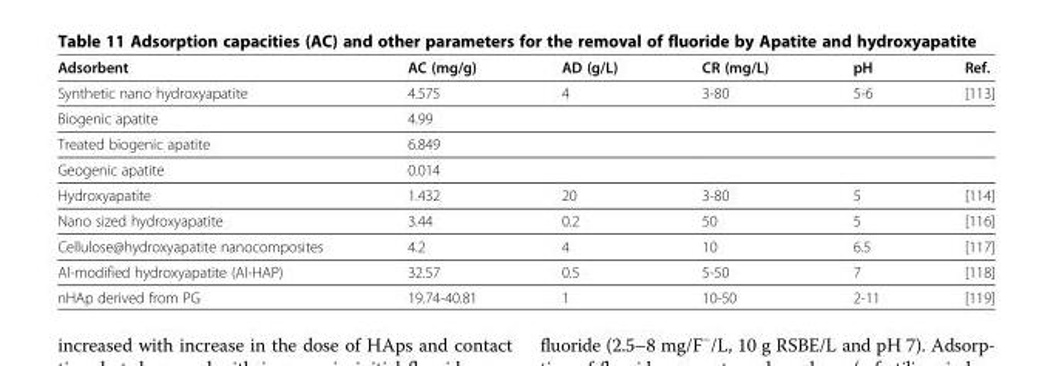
<table><thead><tr><td>Adsorbent</td><td>AC (mg/g)</td><td>AD (g/L)</td><td>CR (mg/L)</td><td>pH</td><td>Ref.</td></tr></thead><tbody><tr><td>Synthetic nano hydroxyapatite</td><td>4.575</td><td>4</td><td>3-80</td><td>5-6</td><td>[113]</td></tr><tr><td>Biogenic apatite</td><td>4.99</td><td></td><td></td><td></td><td></td></tr><tr><td>Treated biogenic apatite</td><td>6.849</td><td></td><td></td><td></td><td></td></tr><tr><td>Geogenic apatite</td><td>0.014</td><td></td><td></td><td></td><td></td></tr><tr><td>Hydroxyapatite</td><td>1.432</td><td>20</td><td>3-80</td><td>5</td><td>[114]</td></tr><tr><td>Nano sized hydroxyapatite</td><td>3.44</td><td>0.2</td><td>50</td><td>5</td><td>[116]</td></tr><tr><td>Cellulose@hydroxyapatite nanocomposites</td><td>4.2</td><td>4</td><td>10</td><td>6.5</td><td>[117]</td></tr><tr><td>Al-modified hydroxyapatite (Al-HAP)</td><td>32.57</td><td>0.5</td><td>5-50</td><td>7</td><td>[118]</td></tr><tr><td>nHAp derived from PG</td><td>19.74-40.81</td><td>1</td><td>10-50</td><td>2-11</td><td>[119]</td></tr></tbody></table>